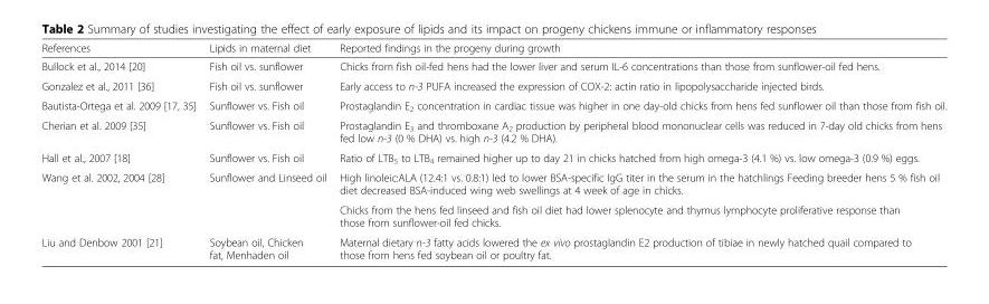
<table><thead><tr><td>References</td><td>Lipids in maternal diet</td><td>Reported findings in the progeny during growth</td></tr></thead><tbody><tr><td>Bullock et al., 2014 [20]</td><td>Fish oil vs. sunflower</td><td>Chicks from fish oil-fed hens had the lower liver and serum IL-6 concentrations than those from sunflower-oil fed hens.</td></tr><tr><td>Gonzalez et al., 2011 [36]</td><td>Fish oil vs. sunflower</td><td>Early access to n-3 PUFA increased the expression of COX-2: actin ratio in lipopolysaccharide injected birds.</td></tr><tr><td>Bautista-Ortega et al. 2009 [17, 35]</td><td>Sunflower vs. Fish oil</td><td>Prostaglandin E<sub>2</sub> concentration in cardiac tissue was higher in one day-old chicks from hens fed sunflower oil than those from fish oil.</td></tr><tr><td>Cherian et al. 2009 [35]</td><td>Sunflower vs. Fish oil</td><td>Prostaglandin E<sub>3</sub> and thromboxane A<sub>2</sub> production by peripheral blood mononuclear cells was reduced in 7-day old chicks from hens fed low n-3 (0 % DHA) vs. high n-3 (4.2 % DHA).</td></tr><tr><td>Hall et al., 2007 [18]</td><td>Sunflower vs. Fish oil</td><td>Ratio of LTB<sub>5</sub> to LTB<sub>4</sub> remained higher up to day 21 in chicks hatched from high omega-3 (4.1 %) vs. low omega-3 (0.9 %) eggs.</td></tr><tr><td rowspan="2">Wang et al. 2002, 2004 [28]</td><td rowspan="2">Sunflower and Linseed oil</td><td>High linoleic:ALA (12.4:1 vs. 0.8:1) led to lower BSA-specific IgG titer in the serum in the hatchlings Feeding breeder hens 5 % fish oil diet decreased BSA-induced wing web swellings at 4 week of age in chicks.</td></tr><tr><td>Chicks from the hens fed linseed and fish oil diet had lower splenocyte and thymus lymphocyte proliferative response than those from sunflower-oil fed chicks.</td></tr><tr><td>Liu and Denbow 2001 [21]</td><td>Soybean oil, Chicken fat, Menhaden oil</td><td>Maternal dietary n-3 fatty acids lowered the ex vivo prostaglandin E2 production of tibiae in newly hatched quail compared to those from hens fed soybean oil or poultry fat.</td></tr></tbody></table>